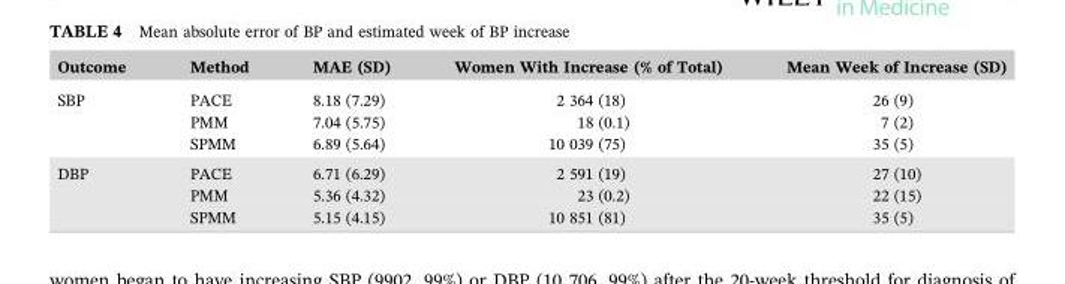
<table><thead><tr><td>Outcome</td><td>Method</td><td>MAE (SD)</td><td>Women With Increase (% of Total)</td><td>Mean Week of Increase (SD)</td></tr></thead><tbody><tr><td rowspan="3">SBP</td><td>PACE</td><td>8.18 (7.29)</td><td>2 364 (18)</td><td>26 (9)</td></tr><tr><td>PMM</td><td>7.04 (5.75)</td><td>18 (0.1)</td><td>7 (2)</td></tr><tr><td>SPMM</td><td>6.89 (5.64)</td><td>10 039 (75)</td><td>35 (5)</td></tr><tr><td rowspan="3">DBP</td><td>PACE</td><td>6.71 (6.29)</td><td>2 591 (19)</td><td>27 (10)</td></tr><tr><td>PMM</td><td>5.36 (4.32)</td><td>23 (0.2)</td><td>22 (15)</td></tr><tr><td>SPMM</td><td>5.15 (4.15)</td><td>10 851 (81)</td><td>35 (5)</td></tr></tbody></table>